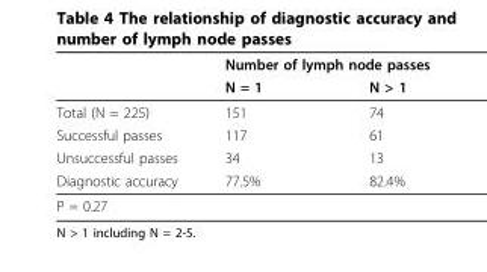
<table><thead><tr><td rowspan="2"></td><td colspan="2">Number of lymph node passes</td></tr><tr><td>N = 1</td><td>N &gt; 1</td></tr></thead><tbody><tr><td>Total (N = 225)</td><td>151</td><td>74</td></tr><tr><td>Successful passes</td><td>117</td><td>61</td></tr><tr><td>Unsuccessful passes</td><td>34</td><td>13</td></tr><tr><td>Diagnostic accuracy</td><td>77.5%</td><td>82.4%</td></tr><tr><td colspan="3">P = 0.27</td></tr></tbody></table>